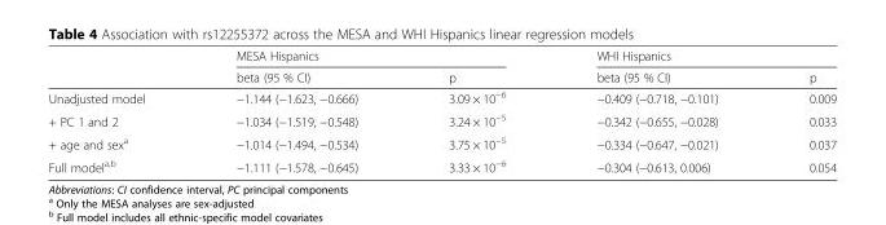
<table><thead><tr><td rowspan="2"></td><td colspan="2">MESA Hispanics</td><td colspan="2">WHI Hispanics</td></tr><tr><td>beta (95 % CI)</td><td>p</td><td>beta (95 % CI)</td><td>p</td></tr></thead><tbody><tr><td>Unadjusted model</td><td>−1.144 (−1.623, −0.666)</td><td>3.09 × 10<sup>−6</sup></td><td>−0.409 (−0.718, −0.101)</td><td>0.009</td></tr><tr><td>+ PC 1 and 2</td><td>−1.034 (−1.519, −0.548)</td><td>3.24 × 10<sup>−5</sup></td><td>−0.342 (−0.655, −0.028)</td><td>0.033</td></tr><tr><td>+ age and sex<sup>a</sup></td><td>−1.014 (−1.494, −0.534)</td><td>3.75 × 10<sup>−5</sup></td><td>−0.334 (−0.647, −0.021)</td><td>0.037</td></tr><tr><td>Full model<sup>a,b</sup></td><td>−1.111 (−1.578, −0.645)</td><td>3.33 × 10<sup>−6</sup></td><td>−0.304 (−0.613, 0.006)</td><td>0.054</td></tr></tbody></table>